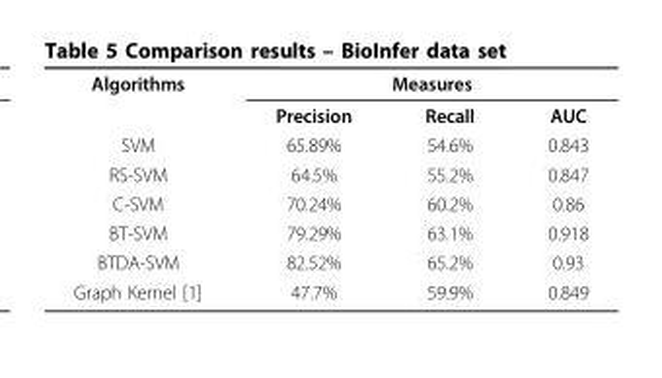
<table><tbody><tr><td rowspan="2">Algorithms</td><td colspan="3">Measures</td></tr><tr><td>Precision</td><td>Recall</td><td>AUC</td></tr><tr><td>SVM</td><td>65.89%</td><td>54.6%</td><td>0.843</td></tr><tr><td>RS-SVM</td><td>64.5%</td><td>55.2%</td><td>0.847</td></tr><tr><td>C-SVM</td><td>70.24%</td><td>60.2%</td><td>0.86</td></tr><tr><td>BT-SVM</td><td>79.29%</td><td>63.1%</td><td>0.918</td></tr><tr><td>BTDA-SVM</td><td>82.52%</td><td>65.2%</td><td>0.93</td></tr><tr><td>Graph Kernel [1]</td><td>47.7%</td><td>59.9%</td><td>0.849</td></tr></tbody></table>